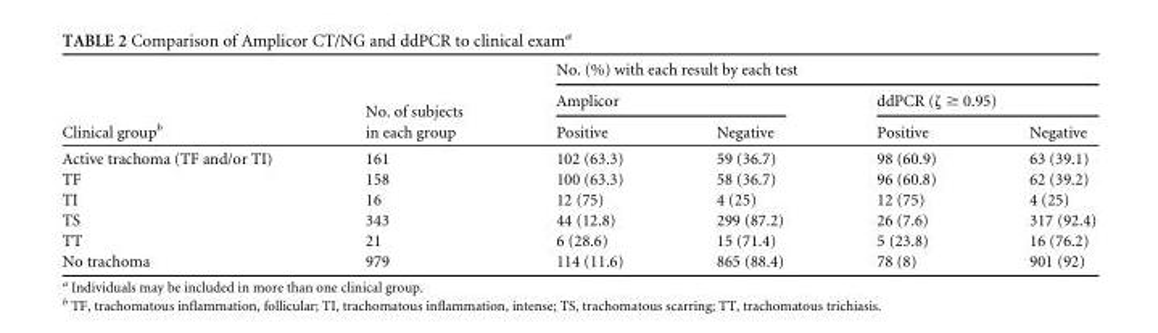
<table><thead><tr><td rowspan="3">Clinical group<sup>b</sup></td><td rowspan="3">No. of subjects in each group</td><td colspan="4">No. (%) with each result by each test</td></tr><tr><td colspan="2">Amplicor</td><td colspan="2">ddPCR (ζ ≥ 0.95)</td></tr><tr><td>Positive</td><td>Negative</td><td>Positive</td><td>Negative</td></tr></thead><tbody><tr><td>Active trachoma (TF and/or TI)</td><td>161</td><td>102 (63.3)</td><td>59 (36.7)</td><td>98 (60.9)</td><td>63 (39.1)</td></tr><tr><td>TF</td><td>158</td><td>100 (63.3)</td><td>58 (36.7)</td><td>96 (60.8)</td><td>62 (39.2)</td></tr><tr><td>TI</td><td>16</td><td>12 (75)</td><td>4 (25)</td><td>12 (75)</td><td>4 (25)</td></tr><tr><td>TS</td><td>343</td><td>44 (12.8)</td><td>299 (87.2)</td><td>26 (7.6)</td><td>317 (92.4)</td></tr><tr><td>TT</td><td>21</td><td>6 (28.6)</td><td>15 (71.4)</td><td>5 (23.8)</td><td>16 (76.2)</td></tr><tr><td>No trachoma</td><td>979</td><td>114 (11.6)</td><td>865 (88.4)</td><td>78 (8)</td><td>901 (92)</td></tr></tbody></table>